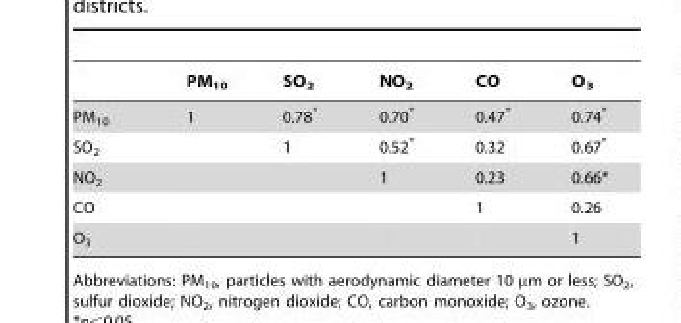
<table><thead><tr><td></td><td>PM<sub>10</sub></td><td>SO<sub>2</sub></td><td>NO<sub>2</sub></td><td>CO</td><td>O<sub>3</sub></td></tr></thead><tbody><tr><td>PM<sub>10</sub></td><td>1</td><td>0.78*</td><td>0.70*</td><td>0.47*</td><td>0.74*</td></tr><tr><td>SO<sub>2</sub></td><td></td><td>1</td><td>0.52*</td><td>0.32</td><td>0.67*</td></tr><tr><td>NO<sub>2</sub></td><td></td><td></td><td>1</td><td>0.23</td><td>0.66*</td></tr><tr><td>CO</td><td></td><td></td><td></td><td>1</td><td>0.26</td></tr><tr><td>O<sub>3</sub></td><td></td><td></td><td></td><td></td><td>1</td></tr></tbody></table>